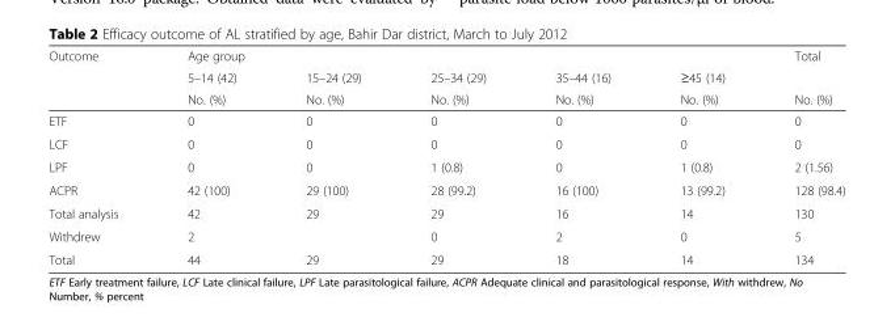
<table><thead><tr><td rowspan="3">Outcome</td><td colspan="5">Age group</td><td rowspan="3">Total No. (%)</td></tr><tr><td rowspan="2">5–14 (42) No. (%)</td><td rowspan="2">15–24 (29) No. (%)</td><td rowspan="2">25–34 (29) No. (%)</td><td rowspan="2">35–44 (16) No. (%)</td><td rowspan="2">≥45 (14) No. (%)</td></tr><tr></tr></thead><tbody><tr><td>ETF</td><td>0</td><td>0</td><td>0</td><td>0</td><td>0</td><td>0</td></tr><tr><td>LCF</td><td>0</td><td>0</td><td>0</td><td>0</td><td>0</td><td>0</td></tr><tr><td>LPF</td><td>0</td><td>0</td><td>1 (0.8)</td><td>0</td><td>1 (0.8)</td><td>2 (1.56)</td></tr><tr><td>ACPR</td><td>42 (100)</td><td>29 (100)</td><td>28 (99.2)</td><td>16 (100)</td><td>13 (99.2)</td><td>128 (98.4)</td></tr><tr><td>Total analysis</td><td>42</td><td>29</td><td>29</td><td>16</td><td>14</td><td>130</td></tr><tr><td>Withdrew</td><td>2</td><td></td><td>0</td><td>2</td><td>0</td><td>5</td></tr><tr><td>Total</td><td>44</td><td>29</td><td>29</td><td>18</td><td>14</td><td>134</td></tr></tbody></table>